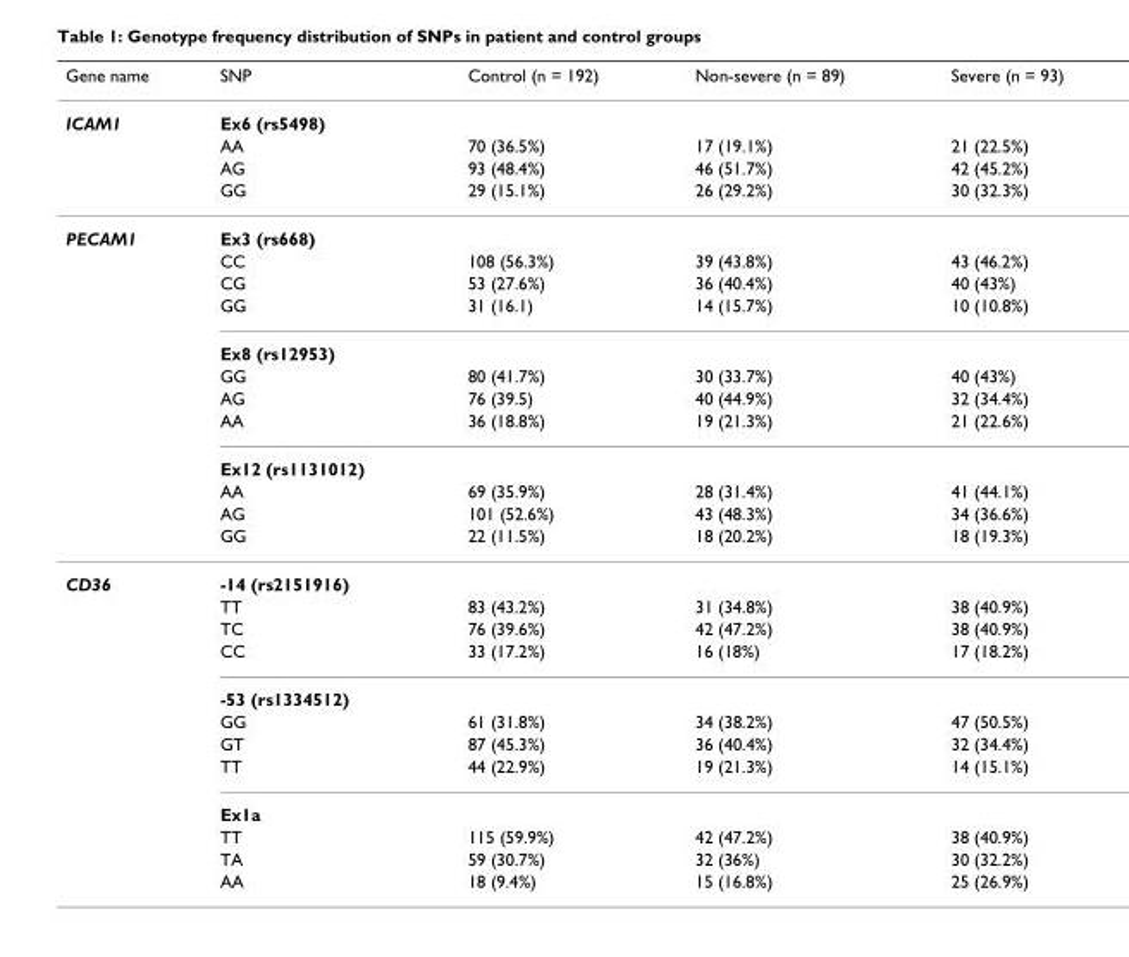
<table><thead><tr><td>Gene name</td><td>SNP</td><td>Control (n = 192)</td><td>Non-severe (n = 89)</td><td>Severe (n = 93)</td></tr></thead><tbody><tr><td rowspan="4">ICAM1</td><td>Ex6 (rs5498)</td><td></td><td></td><td></td></tr><tr><td>AA</td><td>70 (36.5%)</td><td>17 (19.1%)</td><td>21 (22.5%)</td></tr><tr><td>AG</td><td>93 (48.4%)</td><td>46 (51.7%)</td><td>42 (45.2%)</td></tr><tr><td>GG</td><td>29 (15.1%)</td><td>26 (29.2%)</td><td>30 (32.3%)</td></tr><tr><td rowspan="12">PECAM1</td><td>Ex3 (rs668)</td><td></td><td></td><td></td></tr><tr><td>CC</td><td>108 (56.3%)</td><td>39 (43.8%)</td><td>43 (46.2%)</td></tr><tr><td>CG</td><td>53 (27.6%)</td><td>36 (40.4%)</td><td>40 (43%)</td></tr><tr><td>GG</td><td>31 (16.1)</td><td>14 (15.7%)</td><td>10 (10.8%)</td></tr><tr><td>Ex8 (rs12953)</td><td></td><td></td><td></td></tr><tr><td>GG</td><td>80 (41.7%)</td><td>30 (33.7%)</td><td>40 (43%)</td></tr><tr><td>AG</td><td>76 (39.5)</td><td>40 (44.9%)</td><td>32 (34.4%)</td></tr><tr><td>AA</td><td>36 (18.8%)</td><td>19 (21.3%)</td><td>21 (22.6%)</td></tr><tr><td>Ex12 (rs1131012)</td><td></td><td></td><td></td></tr><tr><td>AA</td><td>69 (35.9%)</td><td>28 (31.4%)</td><td>41 (44.1%)</td></tr><tr><td>AG</td><td>101 (52.6%)</td><td>43 (48.3%)</td><td>34 (36.6%)</td></tr><tr><td>GG</td><td>22 (11.5%)</td><td>18 (20.2%)</td><td>18 (19.3%)</td></tr><tr><td rowspan="12">CD36</td><td>-14 (rs2151916)</td><td></td><td></td><td></td></tr><tr><td>TT</td><td>83 (43.2%)</td><td>31 (34.8%)</td><td>38 (40.9%)</td></tr><tr><td>TC</td><td>76 (39.6%)</td><td>42 (47.2%)</td><td>38 (40.9%)</td></tr><tr><td>CC</td><td>33 (17.2%)</td><td>16 (18%)</td><td>17 (18.2%)</td></tr><tr><td>-53 (rs1334512)</td><td></td><td></td><td></td></tr><tr><td>GG</td><td>61 (31.8%)</td><td>34 (38.2%)</td><td>47 (50.5%)</td></tr><tr><td>GT</td><td>87 (45.3%)</td><td>36 (40.4%)</td><td>32 (34.4%)</td></tr><tr><td>TT</td><td>44 (22.9%)</td><td>19 (21.3%)</td><td>14 (15.1%)</td></tr><tr><td>Ex1a</td><td></td><td></td><td></td></tr><tr><td>TT</td><td>115 (59.9%)</td><td>42 (47.2%)</td><td>38 (40.9%)</td></tr><tr><td>TA</td><td>59 (30.7%)</td><td>32 (36%)</td><td>30 (32.2%)</td></tr><tr><td>AA</td><td>18 (9.4%)</td><td>15 (16.8%)</td><td>25 (26.9%)</td></tr></tbody></table>